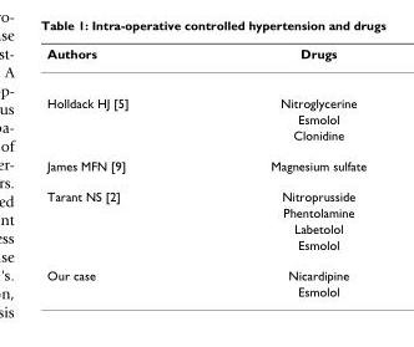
<table><thead><tr><td>Authors</td><td>Drugs</td></tr></thead><tbody><tr><td rowspan="3">Holldack HJ [5]</td><td>Nitroglycerine</td></tr><tr><td>Esmolol</td></tr><tr><td>Clonidine</td></tr><tr><td>James MFN [9]</td><td>Magnesium sulfate</td></tr><tr><td rowspan="4">Tarant NS [2]</td><td>Nitroprusside</td></tr><tr><td>Phentolamine</td></tr><tr><td>Labetolol</td></tr><tr><td>Esmolol</td></tr><tr><td rowspan="2">Our case</td><td>Nicardipine</td></tr><tr><td>Esmolol</td></tr></tbody></table>